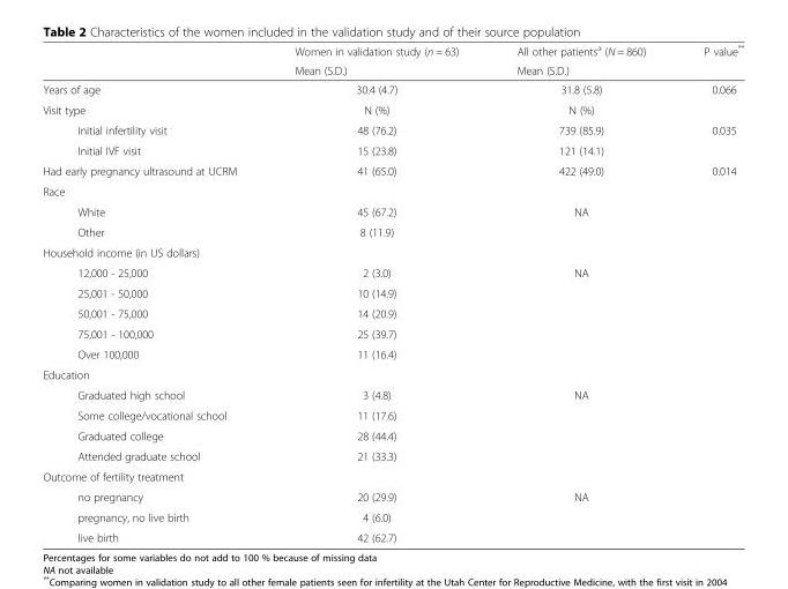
<table><thead><tr><td rowspan="2"></td><td rowspan="2">Women in validation study (n = 63) Mean (S.D.)</td><td rowspan="2">All other patients<sup>a</sup> (N = 860) Mean (S.D.)</td><td rowspan="2">P value**</td></tr><tr></tr></thead><tbody><tr><td>Years of age</td><td>30.4 (4.7)</td><td>31.8 (5.8)</td><td>0.066</td></tr><tr><td>Visit type</td><td>N (%)</td><td>N (%)</td><td></td></tr><tr><td>Initial infertility visit</td><td>48 (76.2)</td><td>739 (85.9)</td><td>0.035</td></tr><tr><td>Initial IVF visit</td><td>15 (23.8)</td><td>121 (14.1)</td><td></td></tr><tr><td>Had early pregnancy ultrasound at UCRM</td><td>41 (65.0)</td><td>422 (49.0)</td><td>0.014</td></tr><tr><td colspan="4">Race</td></tr><tr><td>White</td><td>45 (67.2)</td><td>NA</td><td></td></tr><tr><td>Other</td><td>8 (11.9)</td><td></td><td></td></tr><tr><td colspan="4">Household income (in US dollars)</td></tr><tr><td>12,000 - 25,000</td><td>2 (3.0)</td><td>NA</td><td></td></tr><tr><td>25,001 - 50,000</td><td>10 (14.9)</td><td></td><td></td></tr><tr><td>50,001 - 75,000</td><td>14 (20.9)</td><td></td><td></td></tr><tr><td>75,001 - 100,000</td><td>25 (39.7)</td><td></td><td></td></tr><tr><td>Over 100,000</td><td>11 (16.4)</td><td></td><td></td></tr><tr><td colspan="4">Education</td></tr><tr><td>Graduated high school</td><td>3 (4.8)</td><td>NA</td><td></td></tr><tr><td>Some college/vocational school</td><td>11 (17.6)</td><td></td><td></td></tr><tr><td>Graduated college</td><td>28 (44.4)</td><td></td><td></td></tr><tr><td>Attended graduate school</td><td>21 (33.3)</td><td></td><td></td></tr><tr><td colspan="4">Outcome of fertility treatment</td></tr><tr><td>no pregnancy</td><td>20 (29.9)</td><td>NA</td><td></td></tr><tr><td>pregnancy, no live birth</td><td>4 (6.0)</td><td></td><td></td></tr><tr><td>live birth</td><td>42 (62.7)</td><td></td><td></td></tr></tbody></table>